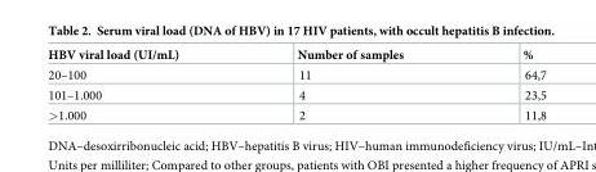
<table><thead><tr><td>HBV viral load (UI/mL)</td><td>Number of samples</td><td>%</td></tr></thead><tbody><tr><td>20–100</td><td>11</td><td>64,7</td></tr><tr><td>101–1.000</td><td>4</td><td>23,5</td></tr><tr><td>&gt;1.000</td><td>2</td><td>11,8</td></tr></tbody></table>